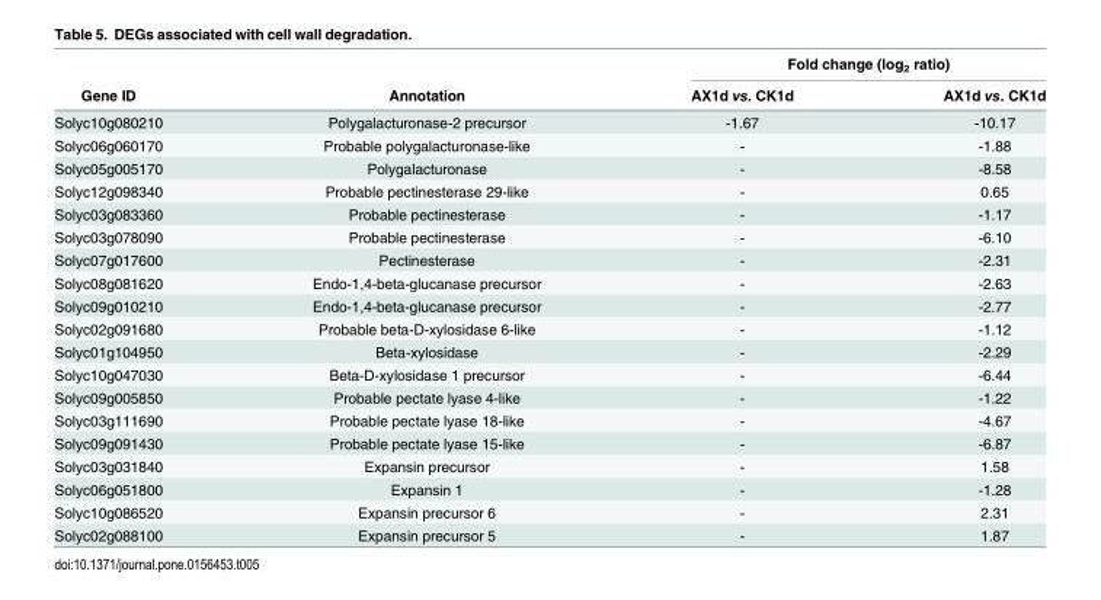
<table><thead><tr><td rowspan="2">Gene ID</td><td rowspan="2">Annotation</td><td colspan="2">Fold change (log<sub>2</sub> ratio)</td></tr><tr><td>AX1d vs. CK1d</td><td>AX1d vs. CK1d</td></tr></thead><tbody><tr><td>Solyc10g080210</td><td>Polygalacturonase-2 precursor</td><td>-1.67</td><td>-10.17</td></tr><tr><td>Solyc06g060170</td><td>Probable polygalacturonase-like</td><td>-</td><td>-1.88</td></tr><tr><td>Solyc05g005170</td><td>Polygalacturonase</td><td>-</td><td>-8.58</td></tr><tr><td>Solyc12g098340</td><td>Probable pectinesterase 29-like</td><td>-</td><td>0.65</td></tr><tr><td>Solyc03g083360</td><td>Probable pectinesterase</td><td>-</td><td>-1.17</td></tr><tr><td>Solyc03g078090</td><td>Probable pectinesterase</td><td>-</td><td>-6.10</td></tr><tr><td>Solyc07g017600</td><td>Pectinesterase</td><td>-</td><td>-2.31</td></tr><tr><td>Solyc08g081620</td><td>Endo-1,4-beta-glucanase precursor</td><td>-</td><td>-2.63</td></tr><tr><td>Solyc09g010210</td><td>Endo-1,4-beta-glucanase precursor</td><td>-</td><td>-2.77</td></tr><tr><td>Solyc02g091680</td><td>Probable beta-D-xylosidase 6-like</td><td>-</td><td>-1.12</td></tr><tr><td>Solyc01g104950</td><td>Beta-xylosidase</td><td>-</td><td>-2.29</td></tr><tr><td>Solyc10g047030</td><td>Beta-D-xylosidase 1 precursor</td><td>-</td><td>-6.44</td></tr><tr><td>Solyc09g005850</td><td>Probable pectate lyase 4-like</td><td>-</td><td>-1.22</td></tr><tr><td>Solyc03g111690</td><td>Probable pectate lyase 18-like</td><td>-</td><td>-4.67</td></tr><tr><td>Solyc09g091430</td><td>Probable pectate lyase 15-like</td><td>-</td><td>-6.87</td></tr><tr><td>Solyc03g031840</td><td>Expansin precursor</td><td>-</td><td>1.58</td></tr><tr><td>Solyc06g051800</td><td>Expansin 1</td><td>-</td><td>-1.28</td></tr><tr><td>Solyc10g086520</td><td>Expansin precursor 6</td><td>-</td><td>2.31</td></tr><tr><td>Solyc02g088100</td><td>Expansin precursor 5</td><td>-</td><td>1.87</td></tr></tbody></table>